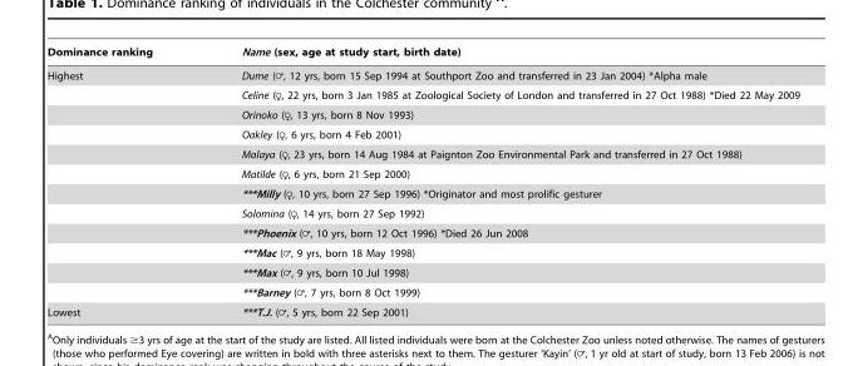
<table><thead><tr><td>Dominance ranking</td><td>Name (sex, age at study start, birth date)</td></tr></thead><tbody><tr><td rowspan="12">Highest</td><td>Dume (=, 12 yrs, born 15 Sep 1994 at Southport Zoo and transferred in 23 Jan 2004) *Alpha male</td></tr><tr><td>Celine (♀, 22 yrs, born 3 Jan 1985 at Zoological Society of London and transferred in 27 Oct 1988) *Died 22 May 2009</td></tr><tr><td>Orinoko (♀, 13 yrs, born 8 Nov 1993)</td></tr><tr><td>Oakley (♀, 6 yrs, born 4 Feb 2001)</td></tr><tr><td>Malaya (♀, 23 yrs, born 14 Aug 1984 at Paignton Zoo Environmental Park and transferred in 27 Oct 1988)</td></tr><tr><td>Matilde (♀, 6 yrs, born 21 Sep 2000)</td></tr><tr><td>***Milly (♀, 10 yrs, born 27 Sep 1996) *Originator and most prolific gesturer</td></tr><tr><td>Solomina (♀, 14 yrs, born 27 Sep 1992)</td></tr><tr><td>***Phoenix (=, 10 yrs, born 12 Oct 1996) *Died 26 Jun 2008</td></tr><tr><td>***Mac (=, 9 yrs, born 18 May 1998)</td></tr><tr><td>***Max (=, 9 yrs, born 10 Jul 1998)</td></tr><tr><td>***Barney (=, 7 yrs, born 8 Oct 1999)</td></tr><tr><td>Lowest</td><td>***T.J. (=, 5 yrs, born 22 Sep 2001)</td></tr></tbody></table>